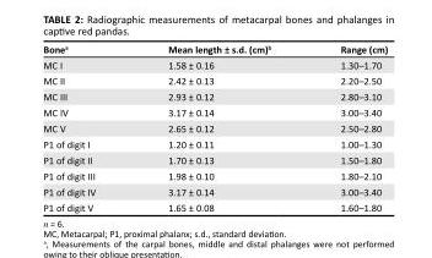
<table><thead><tr><td>Bone<sup>a</sup></td><td>Mean length ± s.d. (cm)<sup>b</sup></td><td>Range (cm)</td></tr></thead><tbody><tr><td>MC I</td><td>1.58 ± 0.16</td><td>1.30–1.70</td></tr><tr><td>MC II</td><td>2.42 ± 0.13</td><td>2.20–2.50</td></tr><tr><td>MC III</td><td>2.93 ± 0.12</td><td>2.80–3.10</td></tr><tr><td>MC IV</td><td>3.17 ± 0.14</td><td>3.00–3.40</td></tr><tr><td>MC V</td><td>2.65 ± 0.12</td><td>2.50–2.80</td></tr><tr><td>P1 of digit I</td><td>1.20 ± 0.11</td><td>1.00–1.30</td></tr><tr><td>P1 of digit II</td><td>1.70 ± 0.13</td><td>1.50–1.80</td></tr><tr><td>P1 of digit III</td><td>1.98 ± 0.10</td><td>1.80–2.10</td></tr><tr><td>P1 of digit IV</td><td>3.17 ± 0.14</td><td>3.00–3.40</td></tr><tr><td>P1 of digit V</td><td>1.65 ± 0.08</td><td>1.60–1.80</td></tr></tbody></table>